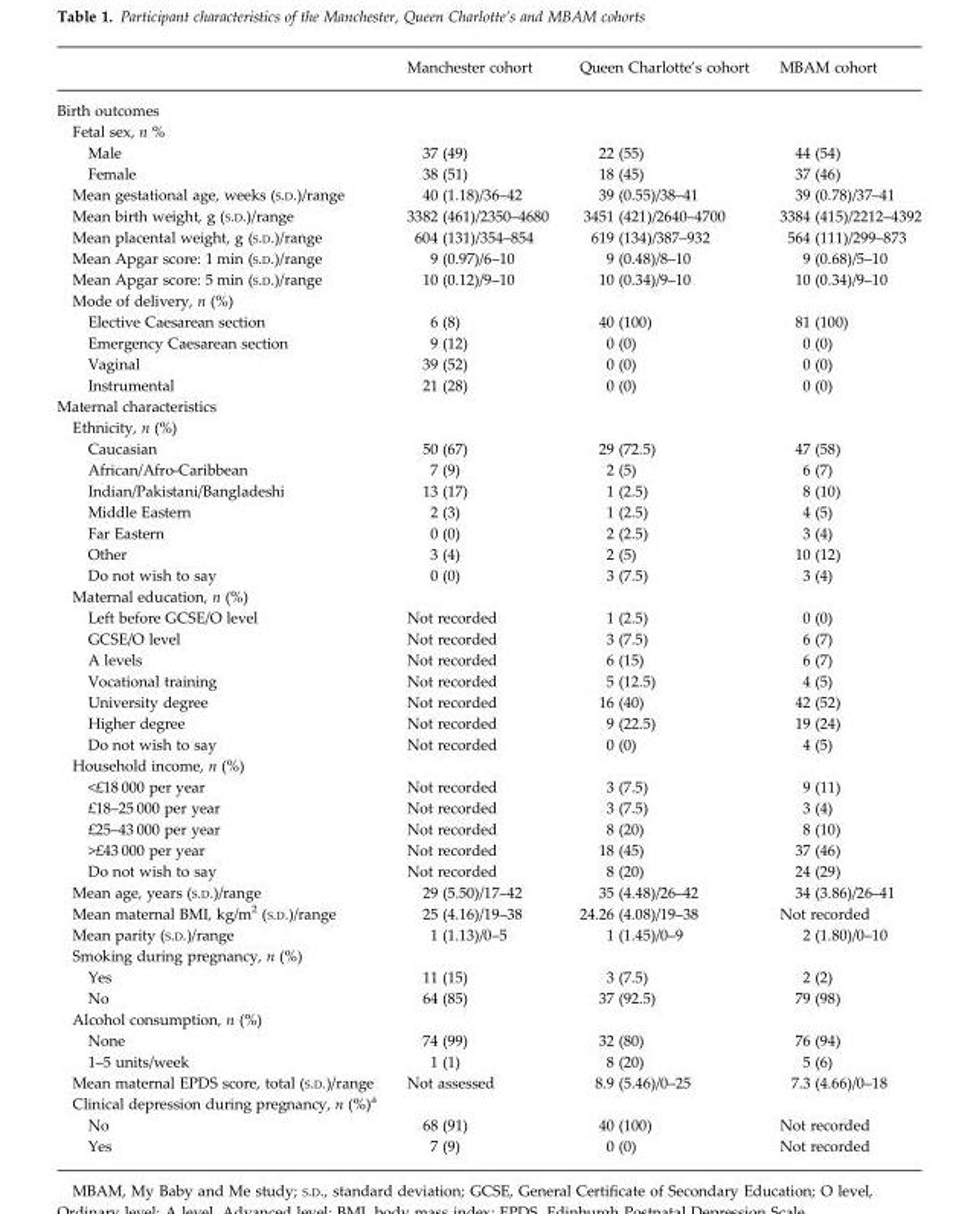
<table><thead><tr><td></td><td>Manchester cohort</td><td>Queen Charlotte’s cohort</td><td>MBAM cohort</td></tr></thead><tbody><tr><td colspan="4">Birth outcomes</td></tr><tr><td colspan="4">Fetal sex, n %</td></tr><tr><td>Male</td><td>37 (49)</td><td>22 (55)</td><td>44 (54)</td></tr><tr><td>Female</td><td>38 (51)</td><td>18 (45)</td><td>37 (46)</td></tr><tr><td>Mean gestational age, weeks (S.D.)/range</td><td>40 (1.18)/36–42</td><td>39 (0.55)/38–41</td><td>39 (0.78)/37–41</td></tr><tr><td>Mean birth weight, g (S.D.)/range</td><td>3382 (461)/2350–4680</td><td>3451 (421)/2640–4700</td><td>3384 (415)/2212–4392</td></tr><tr><td>Mean placental weight, g (S.D.)/range</td><td>604 (131)/354–854</td><td>619 (134)/387–932</td><td>564 (111)/299–873</td></tr><tr><td>Mean Apgar score: 1 min (S.D.)/range</td><td>9 (0.97)/6–10</td><td>9 (0.48)/8–10</td><td>9 (0.68)/5–10</td></tr><tr><td>Mean Apgar score: 5 min (S.D.)/range</td><td>10 (0.12)/9–10</td><td>10 (0.34)/9–10</td><td>10 (0.34)/9–10</td></tr><tr><td colspan="4">Mode of delivery, n (%)</td></tr><tr><td>Elective Caesarean section</td><td>6 (8)</td><td>40 (100)</td><td>81 (100)</td></tr><tr><td>Emergency Caesarean section</td><td>9 (12)</td><td>0 (0)</td><td>0 (0)</td></tr><tr><td>Vaginal</td><td>39 (52)</td><td>0 (0)</td><td>0 (0)</td></tr><tr><td>Instrumental</td><td>21 (28)</td><td>0 (0)</td><td>0 (0)</td></tr><tr><td colspan="4">Maternal characteristics</td></tr><tr><td colspan="4">Ethnicity, n (%)</td></tr><tr><td>Caucasian</td><td>50 (67)</td><td>29 (72.5)</td><td>47 (58)</td></tr><tr><td>African/Afro-Caribbean</td><td>7 (9)</td><td>2 (5)</td><td>6 (7)</td></tr><tr><td>Indian/Pakistani/Bangladeshi</td><td>13 (17)</td><td>1 (2.5)</td><td>8 (10)</td></tr><tr><td>Middle Eastern</td><td>2 (3)</td><td>1 (2.5)</td><td>4 (5)</td></tr><tr><td>Far Eastern</td><td>0 (0)</td><td>2 (2.5)</td><td>3 (4)</td></tr><tr><td>Other</td><td>3 (4)</td><td>2 (5)</td><td>10 (12)</td></tr><tr><td>Do not wish to say</td><td>0 (0)</td><td>3 (7.5)</td><td>3 (4)</td></tr><tr><td colspan="4">Maternal education, n (%)</td></tr><tr><td>Left before GCSE/O level</td><td>Not recorded</td><td>1 (2.5)</td><td>0 (0)</td></tr><tr><td>GCSE/O level</td><td>Not recorded</td><td>3 (7.5)</td><td>6 (7)</td></tr><tr><td>A levels</td><td>Not recorded</td><td>6 (15)</td><td>6 (7)</td></tr><tr><td>Vocational training</td><td>Not recorded</td><td>5 (12.5)</td><td>4 (5)</td></tr><tr><td>University degree</td><td>Not recorded</td><td>16 (40)</td><td>42 (52)</td></tr><tr><td>Higher degree</td><td>Not recorded</td><td>9 (22.5)</td><td>19 (24)</td></tr><tr><td>Do not wish to say</td><td>Not recorded</td><td>0 (0)</td><td>4 (5)</td></tr><tr><td colspan="4">Household income, n (%)</td></tr><tr><td>&lt;£18 000 per year</td><td>Not recorded</td><td>3 (7.5)</td><td>9 (11)</td></tr><tr><td>£18–25 000 per year</td><td>Not recorded</td><td>3 (7.5)</td><td>3 (4)</td></tr><tr><td>£25–43 000 per year</td><td>Not recorded</td><td>8 (20)</td><td>8 (10)</td></tr><tr><td>&gt;£43 000 per year</td><td>Not recorded</td><td>18 (45)</td><td>37 (46)</td></tr><tr><td>Do not wish to say</td><td>Not recorded</td><td>8 (20)</td><td>24 (29)</td></tr><tr><td>Mean age, years (S.D.)/range</td><td>29 (5.50)/17–42</td><td>35 (4.48)/26–42</td><td>34 (3.86)/26–41</td></tr><tr><td>Mean maternal BMI, kg/m<sup>2</sup> (S.D.)/range</td><td>25 (4.16)/19–38</td><td>24.26 (4.08)/19–38</td><td>Not recorded</td></tr><tr><td>Mean parity (S.D.)/range</td><td>1 (1.13)/0–5</td><td>1 (1.45)/0–9</td><td>2 (1.80)/0–10</td></tr><tr><td colspan="4">Smoking during pregnancy, n (%)</td></tr><tr><td>Yes</td><td>11 (15)</td><td>3 (7.5)</td><td>2 (2)</td></tr><tr><td>No</td><td>64 (85)</td><td>37 (92.5)</td><td>79 (98)</td></tr><tr><td colspan="4">Alcohol consumption, n (%)</td></tr><tr><td>None</td><td>74 (99)</td><td>32 (80)</td><td>76 (94)</td></tr><tr><td>1–5 units/week</td><td>1 (1)</td><td>8 (20)</td><td>5 (6)</td></tr><tr><td>Mean maternal EPDS score, total (S.D.)/range</td><td>Not assessed</td><td>8.9 (5.46)/0–25</td><td>7.3 (4.66)/0–18</td></tr><tr><td colspan="4">Clinical depression during pregnancy, n (%)<sup>a</sup></td></tr><tr><td>No</td><td>68 (91)</td><td>40 (100)</td><td>Not recorded</td></tr><tr><td>Yes</td><td>7 (9)</td><td>0 (0)</td><td>Not recorded</td></tr></tbody></table>